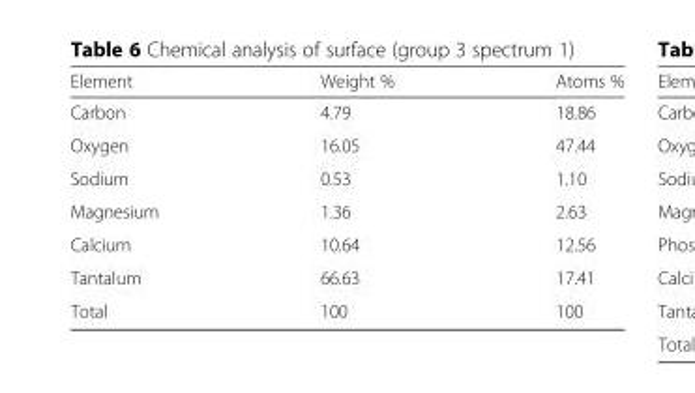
<table><thead><tr><td>Element</td><td>Weight %</td><td>Atoms %</td></tr></thead><tbody><tr><td>Carbon</td><td>4.79</td><td>18.86</td></tr><tr><td>Oxygen</td><td>16.05</td><td>47.44</td></tr><tr><td>Sodium</td><td>0.53</td><td>1.10</td></tr><tr><td>Magnesium</td><td>1.36</td><td>2.63</td></tr><tr><td>Calcium</td><td>10.64</td><td>12.56</td></tr><tr><td>Tantalum</td><td>66.63</td><td>17.41</td></tr><tr><td>Total</td><td>100</td><td>100</td></tr></tbody></table>